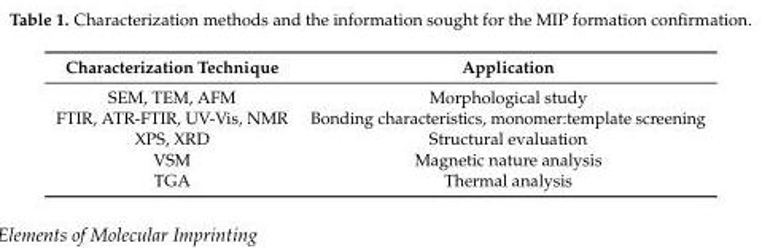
<table><thead><tr><td>Characterization Technique</td><td>Application</td></tr></thead><tbody><tr><td>SEM, TEM, AFM</td><td>Morphological study</td></tr><tr><td>FTIR, ATR-FTIR, UV-Vis, NMR</td><td>Bonding characteristics, monomer:template screening</td></tr><tr><td>XPS, XRD</td><td>Structural evaluation</td></tr><tr><td>VSM</td><td>Magnetic nature analysis</td></tr><tr><td>TGA</td><td>Thermal analysis</td></tr></tbody></table>